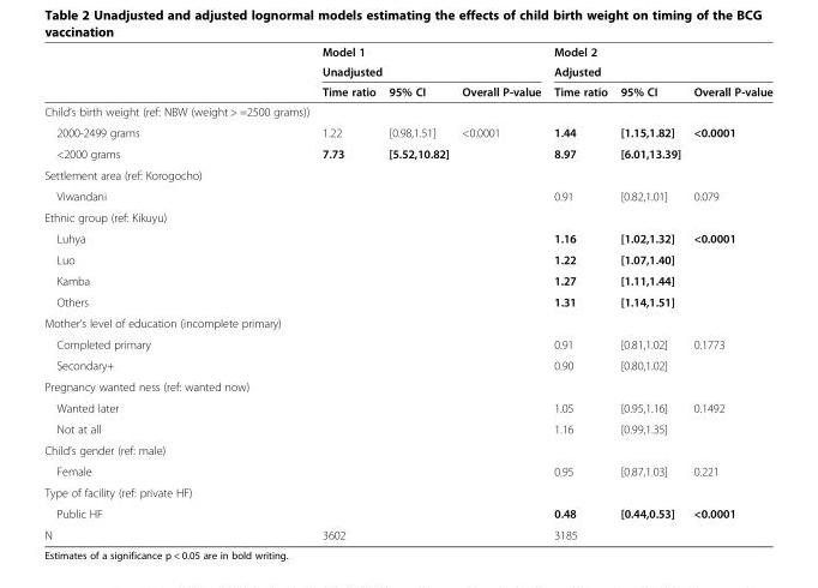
<table><thead><tr><td rowspan="3"></td><td rowspan="2" colspan="3">Model 1 Unadjusted</td><td rowspan="2" colspan="3">Model 2 Adjusted</td></tr><tr></tr><tr><td>Time ratio</td><td>95% CI</td><td>Overall P-value</td><td>Time ratio</td><td>95% CI</td><td>Overall P-value</td></tr></thead><tbody><tr><td colspan="7">Child’s birth weight (ref: NBW (weight &gt; =2500 grams))</td></tr><tr><td>2000-2499 grams</td><td>1.22</td><td>[0.98,1.51]</td><td>&lt;0.0001</td><td>1.44</td><td>[1.15,1.82]</td><td>&lt;0.0001</td></tr><tr><td>&lt;2000 grams</td><td>7.73</td><td>[5.52,10.82]</td><td></td><td>8.97</td><td>[6.01,13.39]</td><td></td></tr><tr><td colspan="7">Settlement area (ref: Korogocho)</td></tr><tr><td>Viwandani</td><td></td><td></td><td></td><td>0.91</td><td>[0.82,1.01]</td><td>0.079</td></tr><tr><td colspan="7">Ethnic group (ref: Kikuyu)</td></tr><tr><td>Luhya</td><td></td><td></td><td></td><td>1.16</td><td>[1.02,1.32]</td><td>&lt;0.0001</td></tr><tr><td>Luo</td><td></td><td></td><td></td><td>1.22</td><td>[1.07,1.40]</td><td></td></tr><tr><td>Kamba</td><td></td><td></td><td></td><td>1.27</td><td>[1.11,1.44]</td><td></td></tr><tr><td>Others</td><td></td><td></td><td></td><td>1.31</td><td>[1.14,1.51]</td><td></td></tr><tr><td colspan="7">Mother’s level of education (incomplete primary)</td></tr><tr><td>Completed primary</td><td></td><td></td><td></td><td>0.91</td><td>[0.81,1.02]</td><td>0.1773</td></tr><tr><td>Secondary+</td><td></td><td></td><td></td><td>0.90</td><td>[0.80,1.02]</td><td></td></tr><tr><td colspan="7">Pregnancy wanted ness (ref: wanted now)</td></tr><tr><td>Wanted later</td><td></td><td></td><td></td><td>1.05</td><td>[0.95,1.16]</td><td>0.1492</td></tr><tr><td>Not at all</td><td></td><td></td><td></td><td>1.16</td><td>[0.99,1.35]</td><td></td></tr><tr><td colspan="7">Child’s gender (ref: male)</td></tr><tr><td>Female</td><td></td><td></td><td></td><td>0.95</td><td>[0.87,1.03]</td><td>0.221</td></tr><tr><td colspan="7">Type of facility (ref: private HF)</td></tr><tr><td>Public HF</td><td></td><td></td><td></td><td>0.48</td><td>[0.44,0.53]</td><td>&lt;0.0001</td></tr><tr><td>N</td><td colspan="3">3602</td><td colspan="3">3185</td></tr></tbody></table>